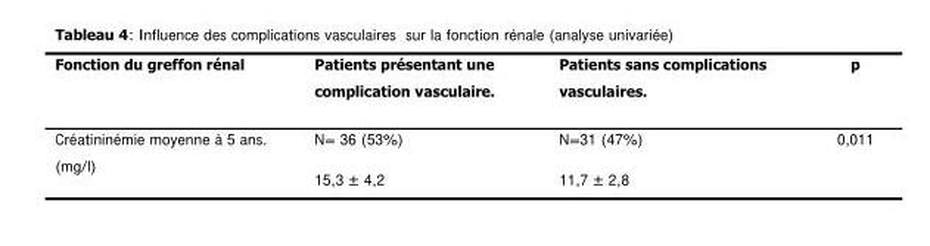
<table><thead><tr><td rowspan="3">Fonction du greffon rénal Créatininémie moyenne à 5 ans. (mg/l)</td><td rowspan="3">Patients présentant une complication vasculaire. N= 36 (53%) 15,3 ± 4,2</td><td rowspan="3">Patients sans complications vasculaires. N=31 (47%) 11,7 ± 2,8</td><td rowspan="3">p 0,011</td></tr><tr></tr><tr></tr></thead><tbody></tbody></table>